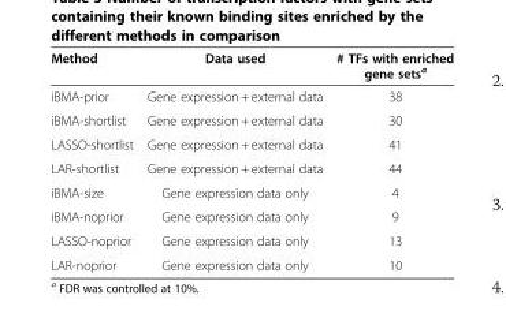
<table><thead><tr><td>Method</td><td>Data used</td><td># TFs with enriched gene sets<sup>a</sup></td></tr></thead><tbody><tr><td>iBMA-prior</td><td>Gene expression + external data</td><td>38</td></tr><tr><td>iBMA-shortlist</td><td>Gene expression + external data</td><td>30</td></tr><tr><td>LASSO-shortlist</td><td>Gene expression + external data</td><td>41</td></tr><tr><td>LAR-shortlist</td><td>Gene expression + external data</td><td>44</td></tr><tr><td>iBMA-size</td><td>Gene expression data only</td><td>4</td></tr><tr><td>iBMA-noprior</td><td>Gene expression data only</td><td>9</td></tr><tr><td>LASSO-noprior</td><td>Gene expression data only</td><td>13</td></tr><tr><td>LAR-noprior</td><td>Gene expression data only</td><td>10</td></tr></tbody></table>